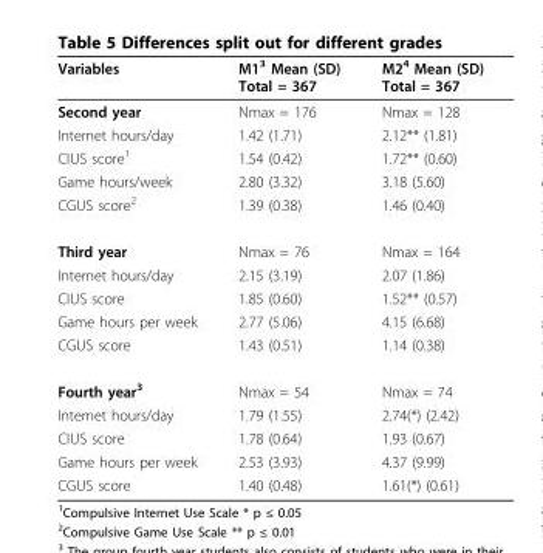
<table><thead><tr><td>Variables</td><td>M1<sup>3</sup> Mean (SD) Total = 367</td><td>M2<sup>4</sup> Mean (SD) Total = 367</td></tr></thead><tbody><tr><td>Second year</td><td>Nmax = 176</td><td>Nmax = 128</td></tr><tr><td>Internet hours/day</td><td>1.42 (1.71)</td><td>2.12** (1.81)</td></tr><tr><td>CIUS score<sup>1</sup></td><td>1.54 (0.42)</td><td>1.72** (0.60)</td></tr><tr><td>Game hours/week</td><td>2.80 (3.32)</td><td>3.18 (5.60)</td></tr><tr><td>CGUS score<sup>2</sup></td><td>1.39 (0.38)</td><td>1.46 (0.40)</td></tr><tr><td>Third year</td><td>Nmax = 76</td><td>Nmax = 164</td></tr><tr><td>Internet hours/day</td><td>2.15 (3.19)</td><td>2.07 (1.86)</td></tr><tr><td>CIUS score</td><td>1.85 (0.60)</td><td>1.52** (0.57)</td></tr><tr><td>Game hours per week</td><td>2.77 (5.06)</td><td>4.15 (6.68)</td></tr><tr><td>CGUS score</td><td>1.43 (0.51)</td><td>1.14 (0.38)</td></tr><tr><td>Fourth year<sup>3</sup></td><td>Nmax = 54</td><td>Nmax = 74</td></tr><tr><td>Internet hours/day</td><td>1.79 (1.55)</td><td>2.74(*) (2.42)</td></tr><tr><td>CIUS score</td><td>1.78 (0.64)</td><td>1.93 (0.67)</td></tr><tr><td>Game hours per week</td><td>2.53 (3.93)</td><td>4.37 (9.99)</td></tr><tr><td>CGUS score</td><td>1.40 (0.48)</td><td>1.61(*) (0.61)</td></tr></tbody></table>